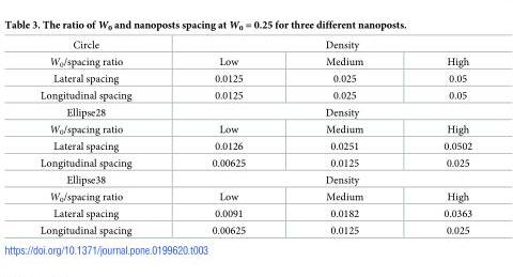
<table><tbody><tr><td>Circle</td><td colspan="3">Density</td></tr><tr><td>W<sub>0</sub>/spacing ratio</td><td>Low</td><td>Medium</td><td>High</td></tr><tr><td>Lateral spacing</td><td>0.0125</td><td>0.025</td><td>0.05</td></tr><tr><td>Longitudinal spacing</td><td>0.0125</td><td>0.025</td><td>0.05</td></tr><tr><td>Ellipse28</td><td colspan="3">Density</td></tr><tr><td>W<sub>0</sub>/spacing ratio</td><td>Low</td><td>Medium</td><td>High</td></tr><tr><td>Lateral spacing</td><td>0.0126</td><td>0.0251</td><td>0.0502</td></tr><tr><td>Longitudinal spacing</td><td>0.00625</td><td>0.0125</td><td>0.025</td></tr><tr><td>Ellipse38</td><td colspan="3">Density</td></tr><tr><td>W<sub>0</sub>/spacing ratio</td><td>Low</td><td>Medium</td><td>High</td></tr><tr><td>Lateral spacing</td><td>0.0091</td><td>0.0182</td><td>0.0363</td></tr><tr><td>Longitudinal spacing</td><td>0.00625</td><td>0.0125</td><td>0.025</td></tr></tbody></table>